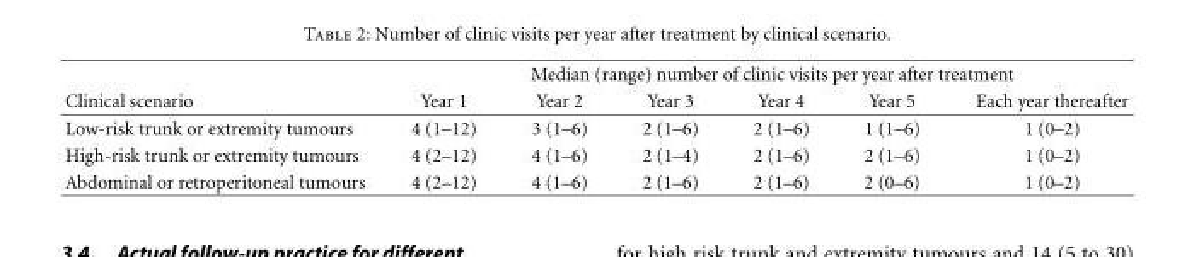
<table><thead><tr><td rowspan="2">Clinical scenario</td><td colspan="6">Median (range) number of clinic visits per year after treatment</td></tr><tr><td>Year 1</td><td>Year 2</td><td>Year 3</td><td>Year 4</td><td>Year 5</td><td>Each year thereafter</td></tr></thead><tbody><tr><td>Low-risk trunk or extremity tumours</td><td>4 (1–12)</td><td>3 (1–6)</td><td>2 (1–6)</td><td>2 (1–6)</td><td>1 (1–6)</td><td>1 (0–2)</td></tr><tr><td>High-risk trunk or extremity tumours</td><td>4 (2–12)</td><td>4 (1–6)</td><td>2 (1–4)</td><td>2 (1–6)</td><td>2 (1–6)</td><td>1 (0–2)</td></tr><tr><td>Abdominal or retroperitoneal tumours</td><td>4 (2–12)</td><td>4 (1–6)</td><td>2 (1–6)</td><td>2 (1–6)</td><td>2 (0–6)</td><td>1 (0–2)</td></tr></tbody></table>